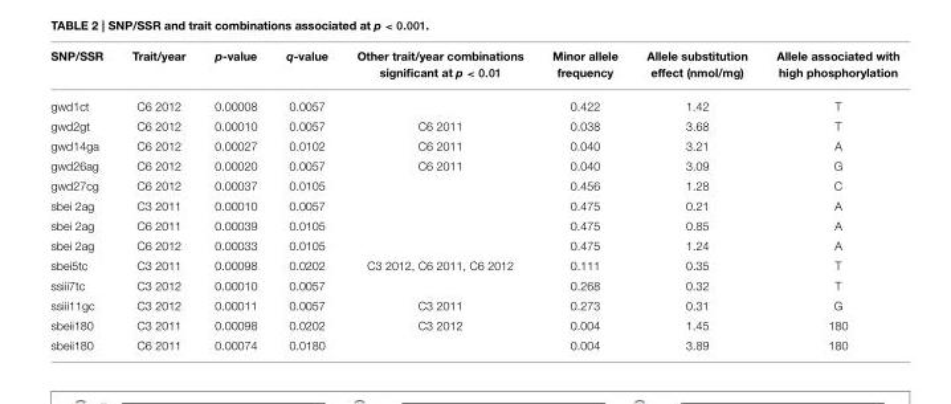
<table><thead><tr><td>SNP/SSR</td><td>Trait/year</td><td>p-value</td><td>q-value</td><td>Other trait/year combinations significant at p &lt; 0.01</td><td>Minor allele frequency</td><td>Allele substitution effect (nmol/mg)</td><td>Allele associated with high phosphorylation</td></tr></thead><tbody><tr><td>gwd1ct</td><td>C6 2012</td><td>0.00008</td><td>0.0057</td><td></td><td>0.422</td><td>1.42</td><td>T</td></tr><tr><td>gwd2gt</td><td>C6 2012</td><td>0.00010</td><td>0.0057</td><td>C6 2011</td><td>0.038</td><td>3.68</td><td>T</td></tr><tr><td>gwd14ga</td><td>C6 2012</td><td>0.00027</td><td>0.0102</td><td>C6 2011</td><td>0.040</td><td>3.21</td><td>A</td></tr><tr><td>gwd26ag</td><td>C6 2012</td><td>0.00020</td><td>0.0057</td><td>C6 2011</td><td>0.040</td><td>3.09</td><td>G</td></tr><tr><td>gwd27cg</td><td>C6 2012</td><td>0.00037</td><td>0.0105</td><td></td><td>0.456</td><td>1.28</td><td>C</td></tr><tr><td>sbei 2ag</td><td>C3 2011</td><td>0.00010</td><td>0.0057</td><td></td><td>0.475</td><td>0.21</td><td>A</td></tr><tr><td>sbei 2ag</td><td>C6 2011</td><td>0.00039</td><td>0.0105</td><td></td><td>0.475</td><td>0.85</td><td>A</td></tr><tr><td>sbei 2ag</td><td>C6 2012</td><td>0.00033</td><td>0.0105</td><td></td><td>0.475</td><td>1.24</td><td>A</td></tr><tr><td>sbei5tc</td><td>C3 2011</td><td>0.00098</td><td>0.0202</td><td>C3 2012, C6 2011, C6 2012</td><td>0.111</td><td>0.35</td><td>T</td></tr><tr><td>ssiii7tc</td><td>C3 2012</td><td>0.00010</td><td>0.0057</td><td></td><td>0.268</td><td>0.32</td><td>T</td></tr><tr><td>ssiii11gc</td><td>C3 2012</td><td>0.00011</td><td>0.0057</td><td>C3 2011</td><td>0.273</td><td>0.31</td><td>G</td></tr><tr><td>sbeii180</td><td>C3 2011</td><td>0.00098</td><td>0.0202</td><td>C3 2012</td><td>0.004</td><td>1.45</td><td>180</td></tr><tr><td>sbeii180</td><td>C6 2011</td><td>0.00074</td><td>0.0180</td><td></td><td>0.004</td><td>3.89</td><td>180</td></tr></tbody></table>